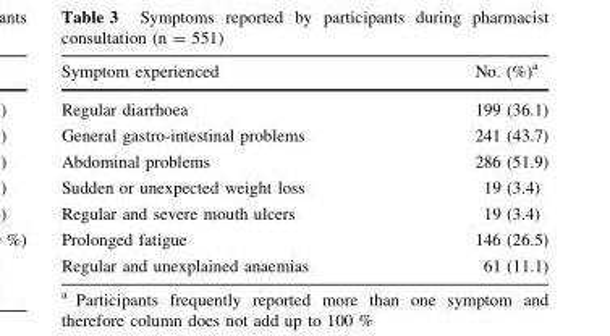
<table><thead><tr><td>Symptom experienced</td><td>No. (%)<sup>a</sup></td></tr></thead><tbody><tr><td>Regular diarrhoea</td><td>199 (36.1)</td></tr><tr><td>General gastro-intestinal problems</td><td>241 (43.7)</td></tr><tr><td>Abdominal problems</td><td>286 (51.9)</td></tr><tr><td>Sudden or unexpected weight loss</td><td>19 (3.4)</td></tr><tr><td>Regular and severe mouth ulcers</td><td>19 (3.4)</td></tr><tr><td>Prolonged fatigue</td><td>146 (26.5)</td></tr><tr><td>Regular and unexplained anaemias</td><td>61 (11.1)</td></tr></tbody></table>